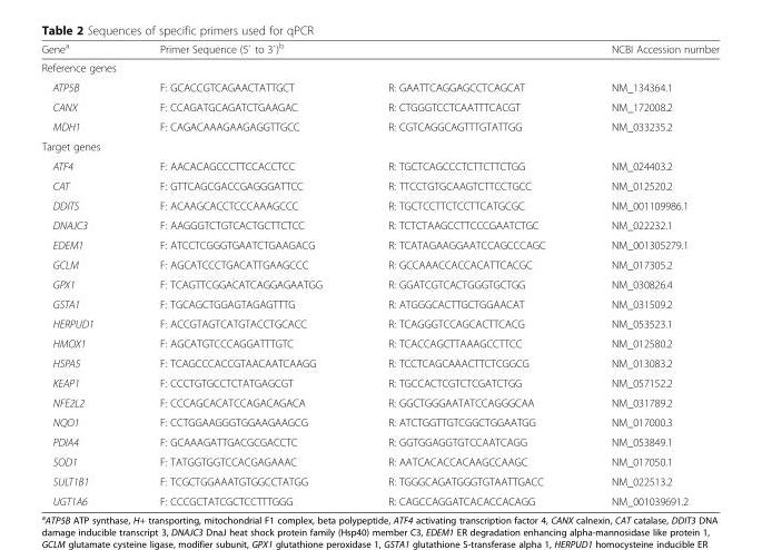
<table><thead><tr><td>Gene<sup>a</sup></td><td colspan="2">Primer Sequence (5` to 3`)<sup>b</sup></td><td>NCBI Accession number</td></tr><tr><td colspan="4">Reference genes</td></tr><tr><td>ATP5B</td><td>F: GCACCGTCAGAACTATTGCT</td><td>R: GAATTCAGGAGCCTCAGCAT</td><td>NM_134364.1</td></tr></thead><tbody><tr><td>CANX</td><td>F: CCAGATGCAGATCTGAAGAC</td><td>R: CTGGGTCCTCAATTTCACGT</td><td>NM_172008.2</td></tr><tr><td>MDH1</td><td>F: CAGACAAAGAAGAGGTTGCC</td><td>R: CGTCAGGCAGTTTGTATTGG</td><td>NM_033235.2</td></tr><tr><td colspan="4">Target genes</td></tr><tr><td>ATF4</td><td>F: AACACAGCCCTTCCACCTCC</td><td>R: TGCTCAGCCCTCTTCTTCTGG</td><td>NM_024403.2</td></tr><tr><td>CAT</td><td>F: GTTCAGCGACCGAGGGATTCC</td><td>R: TTCCTGTGCAAGTCTTCCTGCC</td><td>NM_012520.2</td></tr><tr><td>DDITS</td><td>F: ACAAGCACCTCCCAAAGCCC</td><td>R: TGCTCCTTCTCCTTCATGCGC</td><td>NM_001109986.1</td></tr><tr><td>DNAJC3</td><td>F: AAGGGTCTGTCACTGCTTCTCC</td><td>R: TCTCTAAGCCTTCCCGAATCTGC</td><td>NM_022232.1</td></tr><tr><td>EDEM1</td><td>F: ATCCTCGGGTGAATCTGAAGACG</td><td>R: TCATAGAAGGAATCCAGCCCAGC</td><td>NM_001305279.1</td></tr><tr><td>GCLM</td><td>F: AGCATCCCTGACATTGAAGCCC</td><td>R: GCCAAACCACCACATTCACGC</td><td>NM_017305.2</td></tr><tr><td>GPX1</td><td>F: TCAGTTCGGACATCAGGAGAATGG</td><td>R: GGATCGTCACTGGGTGCTGG</td><td>NM_030826.4</td></tr><tr><td>GSTA1</td><td>F: TGCAGCTGGAGTAGAGTTTG</td><td>R: ATGGGCACTTGCTGGAACAT</td><td>NM_031509.2</td></tr><tr><td>HERPUD1</td><td>F: ACCGTAGTCATGTACCTGCACC</td><td>R: TCAGGGTCCAGCACTTCACG</td><td>NM_053523.1</td></tr><tr><td>HMOX1</td><td>F: AGCATGTCCCAGGATTTGTC</td><td>R: TCACCAGCTTAAAGCCTTCC</td><td>NM_012580.2</td></tr><tr><td>HSPA5</td><td>F: TCAGCCCACCGTAACAATCAAGG</td><td>R: TCCTCAGCAAACTTCTCGGCG</td><td>NM_013083.2</td></tr><tr><td>KEAP1</td><td>F: CCCTGTGCCTCTATGAGCGT</td><td>R: TGCCACTCGTCTCGATCTGG</td><td>NM_057152.2</td></tr><tr><td>NFE2L2</td><td>F: CCCAGCACATCCAGACAGACA</td><td>R: GGCTGGGAATATCCAGGGCAA</td><td>NM_031789.2</td></tr><tr><td>NQO1</td><td>F: CCTGGAAGGGTGGAAGAAGCG</td><td>R: ATCTGGTTGTCGGCTGGAATGG</td><td>NM_017000.3</td></tr><tr><td>PDIA4</td><td>F: GCAAAGATTGACGCGACCTC</td><td>R: GGTGGAGGTGTCCAATCAGG</td><td>NM_053849.1</td></tr><tr><td>SOD1</td><td>F: TATGGTGGTCCACGAGAAAC</td><td>R: AATCACACCACAAGCCAAGC</td><td>NM_017050.1</td></tr><tr><td>SULT1B1</td><td>F: TCGCTGGAAATGTGGCCTATGG</td><td>R: TGGGCAGATGGGTGTAATTGACC</td><td>NM_022513.2</td></tr><tr><td>UGT1A6</td><td>F: CCCGCTATCGCTCCTTTGGG</td><td>R: CAGCCAGGATCACACCACAGG</td><td>NM_001039691.2</td></tr></tbody></table>